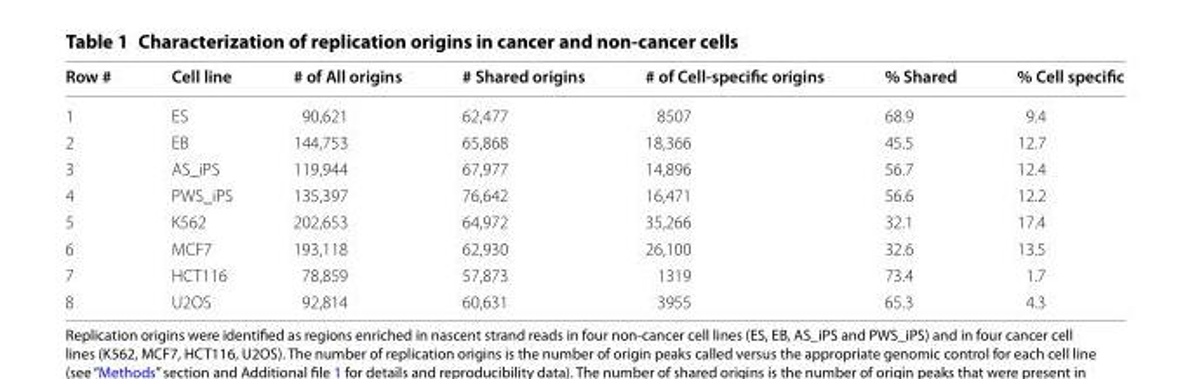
<table><thead><tr><td>Row #</td><td>Cell line</td><td># of All origins</td><td># Shared origins</td><td># of Cell‑specific origins</td><td>% Shared</td><td>% Cell specific</td></tr></thead><tbody><tr><td>1</td><td>ES</td><td>90,621</td><td>62,477</td><td>8507</td><td>68.9</td><td>9.4</td></tr><tr><td>2</td><td>EB</td><td>144,753</td><td>65,868</td><td>18,366</td><td>45.5</td><td>12.7</td></tr><tr><td>3</td><td>AS_iPS</td><td>119,944</td><td>67,977</td><td>14,896</td><td>56.7</td><td>12.4</td></tr><tr><td>4</td><td>PWS_iPS</td><td>135,397</td><td>76,642</td><td>16,471</td><td>56.6</td><td>12.2</td></tr><tr><td>5</td><td>K562</td><td>202,653</td><td>64,972</td><td>35,266</td><td>32.1</td><td>17.4</td></tr><tr><td>6</td><td>MCF7</td><td>193,118</td><td>62,930</td><td>26,100</td><td>32.6</td><td>13.5</td></tr><tr><td>7</td><td>HCT116</td><td>78,859</td><td>57,873</td><td>1319</td><td>73.4</td><td>1.7</td></tr><tr><td>8</td><td>U2OS</td><td>92,814</td><td>60,631</td><td>3955</td><td>65.3</td><td>4.3</td></tr></tbody></table>